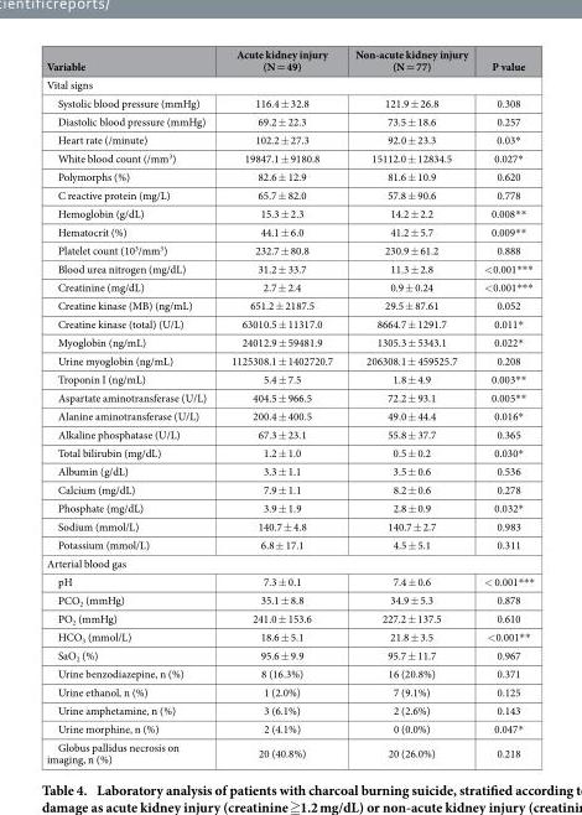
<table><thead><tr><td>Variable</td><td>Acute kidney injury (N = 49)</td><td>Non-acute kidney injury (N = 77)</td><td>P value</td></tr></thead><tbody><tr><td colspan="4">Vital signs</td></tr><tr><td>Systolic blood pressure (mmHg)</td><td>116.4 ± 32.8</td><td>121.9 ± 26.8</td><td>0.308</td></tr><tr><td>Diastolic blood pressure (mmHg)</td><td>69.2 ± 22.3</td><td>73.5 ± 18.6</td><td>0.257</td></tr><tr><td>Heart rate (/minute)</td><td>102.2 ± 27.3</td><td>92.0 ± 23.3</td><td>0.03*</td></tr><tr><td>White blood count (/mm<sup>3</sup>)</td><td>19847.1 ± 9180.8</td><td>15112.0 ± 12834.5</td><td>0.027*</td></tr><tr><td>Polymorphs (%)</td><td>82.6 ± 12.9</td><td>81.6 ± 10.9</td><td>0.620</td></tr><tr><td>C reactive protein (mg/L)</td><td>65.7 ± 82.0</td><td>57.8 ± 90.6</td><td>0.778</td></tr><tr><td>Hemoglobin (g/dL)</td><td>15.3 ± 2.3</td><td>14.2 ± 2.2</td><td>0.008* *</td></tr><tr><td>Hematocrit (%)</td><td>44.1 ± 6.0</td><td>41.2 ± 5.7</td><td>0.009* *</td></tr><tr><td>Platelet count (10<sup>3</sup>/mm<sup>3</sup>)</td><td>232.7 ± 80.8</td><td>230.9 ± 61.2</td><td>0.888</td></tr><tr><td>Blood urea nitrogen (mg/dL)</td><td>31.2 ± 33.7</td><td>11.3 ± 2.8</td><td>&lt; 0.001* * *</td></tr><tr><td>Creatinine (mg/dL)</td><td>2.7 ± 2.4</td><td>0.9 ± 0.24</td><td>&lt; 0.001* * *</td></tr><tr><td>Creatine kinase (MB) (ng/mL)</td><td>651.2 ± 2187.5</td><td>29.5 ± 87.61</td><td>0.052</td></tr><tr><td>Creatine kinase (total) (U/L)</td><td>63010.5 ± 11317.0</td><td>8664.7 ± 1291.7</td><td>0.011*</td></tr><tr><td>Myoglobin (ng/mL)</td><td>24012.9 ± 59481.9</td><td>1305.3 ± 5343.1</td><td>0.022*</td></tr><tr><td>Urine myoglobin (ng/mL)</td><td>1125308.1 ± 1402720.7</td><td>206308.1 ± 459525.7</td><td>0.208</td></tr><tr><td>Troponin I (ng/mL)</td><td>5.4 ± 7.5</td><td>1.8 ± 4.9</td><td>0.003* *</td></tr><tr><td>Aspartate aminotransferase (U/L)</td><td>404.5 ± 966.5</td><td>72.2 ± 93.1</td><td>0.005* *</td></tr><tr><td>Alanine aminotransferase (U/L)</td><td>200.4 ± 400.5</td><td>49.0 ± 44.4</td><td>0.016*</td></tr><tr><td>Alkaline phosphatase (U/L)</td><td>67.3 ± 23.1</td><td>55.8 ± 37.7</td><td>0.365</td></tr><tr><td>Total bilirubin (mg/dL)</td><td>1.2 ± 1.0</td><td>0.5 ± 0.2</td><td>0.030*</td></tr><tr><td>Albumin (g/dL)</td><td>3.3 ± 1.1</td><td>3.5 ± 0.6</td><td>0.536</td></tr><tr><td>Calcium (mg/dL)</td><td>7.9 ± 1.1</td><td>8.2 ± 0.6</td><td>0.278</td></tr><tr><td>Phosphate (mg/dL)</td><td>3.9 ± 1.9</td><td>2.8 ± 0.9</td><td>0.032*</td></tr><tr><td>Sodium (mmol/L)</td><td>140.7 ± 4.8</td><td>140.7 ± 2.7</td><td>0.983</td></tr><tr><td>Potassium (mmol/L)</td><td>6.8 ± 17.1</td><td>4.5 ± 5.1</td><td>0.311</td></tr><tr><td colspan="4">Arterial blood gas</td></tr><tr><td>pH</td><td>7.3 ± 0.1</td><td>7.4 ± 0.6</td><td>&lt; 0.001* * *</td></tr><tr><td>PCO<sub>2</sub> (mmHg)</td><td>35.1 ± 8.8</td><td>34.9 ± 5.3</td><td>0.878</td></tr><tr><td>PO<sub>2</sub> (mmHg)</td><td>241.0 ± 153.6</td><td>227.2 ± 137.5</td><td>0.610</td></tr><tr><td>HCO<sub>3</sub> (mmol/L)</td><td>18.6 ± 5.1</td><td>21.8 ± 3.5</td><td>&lt; 0.001* *</td></tr><tr><td>SaO<sub>2</sub> (%)</td><td>95.6 ± 9.9</td><td>95.7 ± 11.7</td><td>0.967</td></tr><tr><td>Urine benzodiazepine, n (%)</td><td>8 (16.3%)</td><td>16 (20.8%)</td><td>0.371</td></tr><tr><td>Urine ethanol, n (%)</td><td>1 (2.0%)</td><td>7 (9.1%)</td><td>0.125</td></tr><tr><td>Urine amphetamine, n (%)</td><td>3 (6.1%)</td><td>2 (2.6%)</td><td>0.143</td></tr><tr><td>Urine morphine, n (%)</td><td>2 (4.1%)</td><td>0 (0.0%)</td><td>0.047*</td></tr><tr><td>Globus pallidus necrosis on imaging, n (%)</td><td>20 (40.8%)</td><td>20 (26.0%)</td><td>0.218</td></tr></tbody></table>